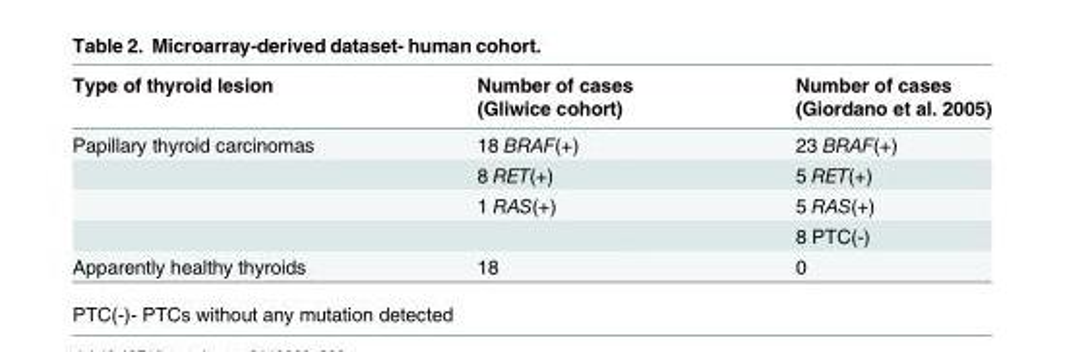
<table><thead><tr><td>Type of thyroid lesion</td><td>Number of cases (Gliwice cohort)</td><td>Number of cases (Giordano et al. 2005)</td></tr></thead><tbody><tr><td rowspan="4">Papillary thyroid carcinomas</td><td>18 BRAF(+)</td><td>23 BRAF(+)</td></tr><tr><td>8 RET(+)</td><td>5 RET(+)</td></tr><tr><td>1 RAS(+)</td><td>5 RAS(+)</td></tr><tr><td></td><td>8 PTC(-)</td></tr><tr><td>Apparently healthy thyroids</td><td>18</td><td>0</td></tr></tbody></table>